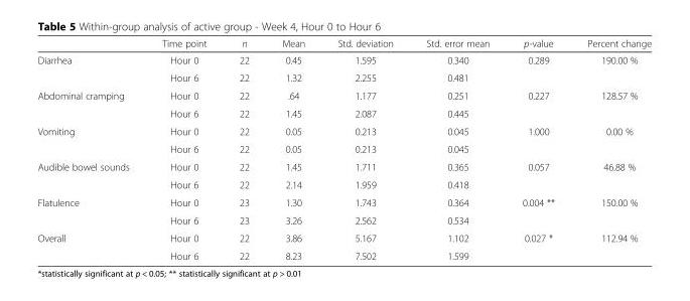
<table><thead><tr><td></td><td>Time point</td><td>n</td><td>Mean</td><td>Std. deviation</td><td>Std. error mean</td><td>p-value</td><td>Percent change</td></tr></thead><tbody><tr><td rowspan="2">Diarrhea</td><td>Hour 0</td><td>22</td><td>0.45</td><td>1.595</td><td>0.340</td><td rowspan="2">0.289</td><td rowspan="2">190.00 %</td></tr><tr><td>Hour 6</td><td>22</td><td>1.32</td><td>2.255</td><td>0.481</td></tr><tr><td rowspan="2">Abdominal cramping</td><td>Hour 0</td><td>22</td><td>.64</td><td>1.177</td><td>0.251</td><td rowspan="2">0.227</td><td rowspan="2">128.57 %</td></tr><tr><td>Hour 6</td><td>22</td><td>1.45</td><td>2.087</td><td>0.445</td></tr><tr><td rowspan="2">Vomiting</td><td>Hour 0</td><td>22</td><td>0.05</td><td>0.213</td><td>0.045</td><td rowspan="2">1.000</td><td rowspan="2">0.00 %</td></tr><tr><td>Hour 6</td><td>22</td><td>0.05</td><td>0.213</td><td>0.045</td></tr><tr><td rowspan="2">Audible bowel sounds</td><td>Hour 0</td><td>22</td><td>1.45</td><td>1.711</td><td>0.365</td><td rowspan="2">0.057</td><td rowspan="2">46.88 %</td></tr><tr><td>Hour 6</td><td>22</td><td>2.14</td><td>1.959</td><td>0.418</td></tr><tr><td rowspan="2">Flatulence</td><td>Hour 0</td><td>23</td><td>1.30</td><td>1.743</td><td>0.364</td><td rowspan="2">0.004 **</td><td rowspan="2">150.00 %</td></tr><tr><td>Hour 6</td><td>23</td><td>3.26</td><td>2.562</td><td>0.534</td></tr><tr><td rowspan="2">Overall</td><td>Hour 0</td><td>22</td><td>3.86</td><td>5.167</td><td>1.102</td><td rowspan="2">0.027 *</td><td rowspan="2">112.94 %</td></tr><tr><td>Hour 6</td><td>22</td><td>8.23</td><td>7.502</td><td>1.599</td></tr></tbody></table>